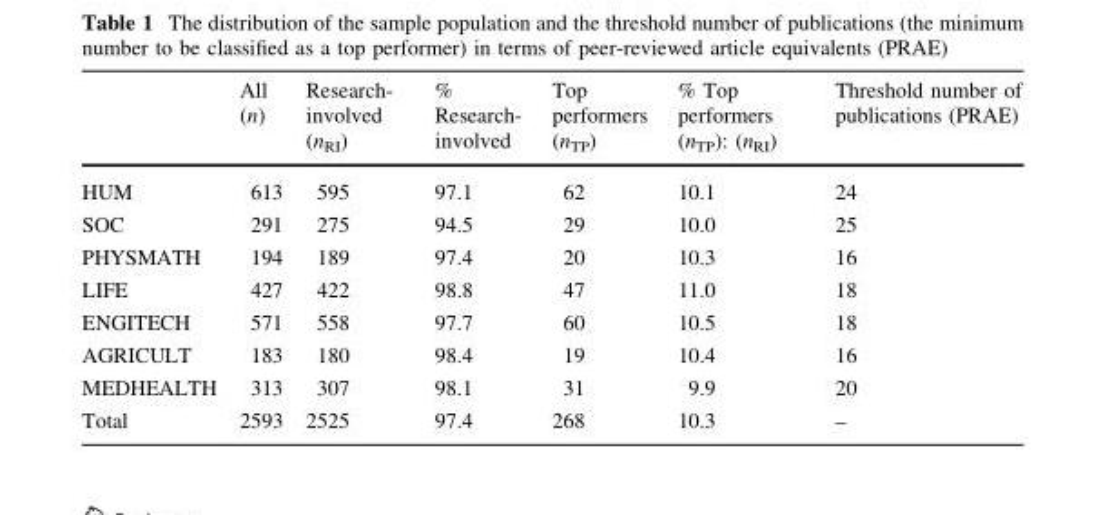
<table><thead><tr><td></td><td>All (n)</td><td>Research- involved (n<sub>RI</sub>)</td><td>% Research- involved</td><td>Top performers (n<sub>TP</sub>)</td><td>% Top performers (n<sub>TP</sub>): (n<sub>RI</sub>)</td><td>Threshold number of publications (PRAE)</td></tr></thead><tbody><tr><td>HUM</td><td>613</td><td>595</td><td>97.1</td><td>62</td><td>10.1</td><td>24</td></tr><tr><td>SOC</td><td>291</td><td>275</td><td>94.5</td><td>29</td><td>10.0</td><td>25</td></tr><tr><td>PHYSMATH</td><td>194</td><td>189</td><td>97.4</td><td>20</td><td>10.3</td><td>16</td></tr><tr><td>LIFE</td><td>427</td><td>422</td><td>98.8</td><td>47</td><td>11.0</td><td>18</td></tr><tr><td>ENGITECH</td><td>571</td><td>558</td><td>97.7</td><td>60</td><td>10.5</td><td>18</td></tr><tr><td>AGRICULT</td><td>183</td><td>180</td><td>98.4</td><td>19</td><td>10.4</td><td>16</td></tr><tr><td>MEDHEALTH</td><td>313</td><td>307</td><td>98.1</td><td>31</td><td>9.9</td><td>20</td></tr><tr><td>Total</td><td>2593</td><td>2525</td><td>97.4</td><td>268</td><td>10.3</td><td>–</td></tr></tbody></table>